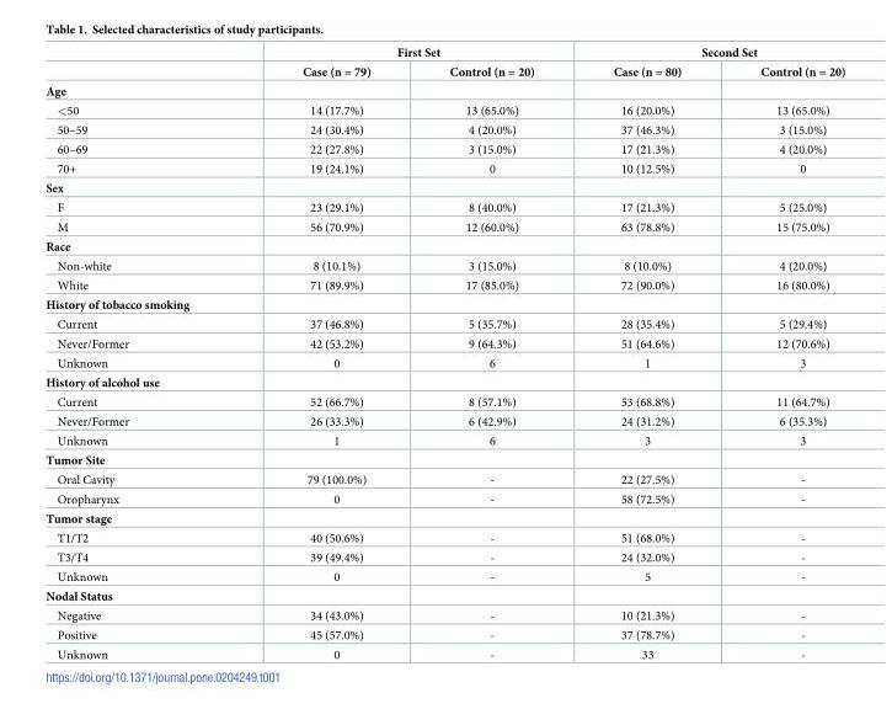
<table><thead><tr><td rowspan="2"></td><td colspan="2">First Set</td><td colspan="2">Second Set</td></tr><tr><td>Case (n = 79)</td><td>Control (n = 20)</td><td>Case (n = 80)</td><td>Control (n = 20)</td></tr></thead><tbody><tr><td colspan="5">Age</td></tr><tr><td>&lt;50</td><td>14 (17.7%)</td><td>13 (65.0%)</td><td>16 (20.0%)</td><td>13 (65.0%)</td></tr><tr><td>50–59</td><td>24 (30.4%)</td><td>4 (20.0%)</td><td>37 (46.3%)</td><td>3 (15.0%)</td></tr><tr><td>60–69</td><td>22 (27.8%)</td><td>3 (15.0%)</td><td>17 (21.3%)</td><td>4 (20.0%)</td></tr><tr><td>70+</td><td>19 (24.1%)</td><td>0</td><td>10 (12.5%)</td><td>0</td></tr><tr><td colspan="5">Sex</td></tr><tr><td>F</td><td>23 (29.1%)</td><td>8 (40.0%)</td><td>17 (21.3%)</td><td>5 (25.0%)</td></tr><tr><td>M</td><td>56 (70.9%)</td><td>12 (60.0%)</td><td>63 (78.8%)</td><td>15 (75.0%)</td></tr><tr><td colspan="5">Race</td></tr><tr><td>Non-white</td><td>8 (10.1%)</td><td>3 (15.0%)</td><td>8 (10.0%)</td><td>4 (20.0%)</td></tr><tr><td>White</td><td>71 (89.9%)</td><td>17 (85.0%)</td><td>72 (90.0%)</td><td>16 (80.0%)</td></tr><tr><td colspan="5">History of tobacco smoking</td></tr><tr><td>Current</td><td>37 (46.8%)</td><td>5 (35.7%)</td><td>28 (35.4%)</td><td>5 (29.4%)</td></tr><tr><td>Never/Former</td><td>42 (53.2%)</td><td>9 (64.3%)</td><td>51 (64.6%)</td><td>12 (70.6%)</td></tr><tr><td>Unknown</td><td>0</td><td>6</td><td>1</td><td>3</td></tr><tr><td colspan="5">History of alcohol use</td></tr><tr><td>Current</td><td>52 (66.7%)</td><td>8 (57.1%)</td><td>53 (68.8%)</td><td>11 (64.7%)</td></tr><tr><td>Never/Former</td><td>26 (33.3%)</td><td>6 (42.9%)</td><td>24 (31.2%)</td><td>6 (35.3%)</td></tr><tr><td>Unknown</td><td>1</td><td>6</td><td>3</td><td>3</td></tr><tr><td colspan="5">Tumor Site</td></tr><tr><td>Oral Cavity</td><td>79 (100.0%)</td><td>-</td><td>22 (27.5%)</td><td>-</td></tr><tr><td>Oropharynx</td><td>0</td><td>-</td><td>58 (72.5%)</td><td>-</td></tr><tr><td colspan="5">Tumor stage</td></tr><tr><td>T1/T2</td><td>40 (50.6%)</td><td>-</td><td>51 (68.0%)</td><td>-</td></tr><tr><td>T3/T4</td><td>39 (49.4%)</td><td>-</td><td>24 (32.0%)</td><td>-</td></tr><tr><td>Unknown</td><td>0</td><td>-</td><td>5</td><td>-</td></tr><tr><td colspan="5">Nodal Status</td></tr><tr><td>Negative</td><td>34 (43.0%)</td><td>-</td><td>10 (21.3%)</td><td>-</td></tr><tr><td>Positive</td><td>45 (57.0%)</td><td>-</td><td>37 (78.7%)</td><td>-</td></tr><tr><td>Unknown</td><td>0</td><td>-</td><td>33</td><td>-</td></tr></tbody></table>